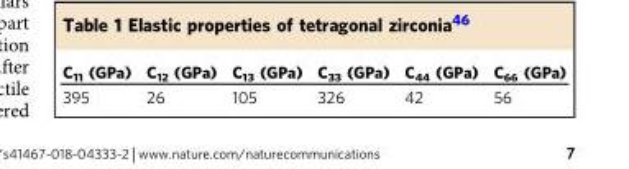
<table><thead><tr><td>C<sub>11</sub> (GPa)</td><td>C<sub>12</sub> (GPa)</td><td>C<sub>13</sub> (GPa)</td><td>C<sub>33</sub> (GPa)</td><td>C<sub>44</sub> (GPa)</td><td>C<sub>66</sub> (GPa)</td></tr></thead><tbody><tr><td>395</td><td>26</td><td>105</td><td>326</td><td>42</td><td>56</td></tr></tbody></table>